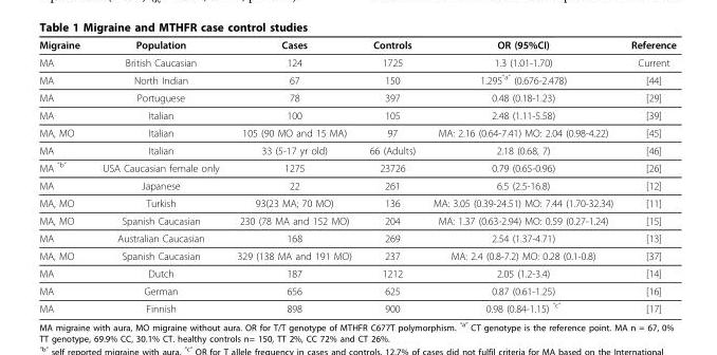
<table><thead><tr><td>Migraine</td><td>Population</td><td>Cases</td><td>Controls</td><td>OR (95%CI)</td><td>Reference</td></tr></thead><tbody><tr><td>MA</td><td>British Caucasian</td><td>124</td><td>1725</td><td>1.3 (1.01-1.70)</td><td>Current</td></tr><tr><td>MA</td><td>North Indian</td><td>67</td><td>150</td><td>1.295“a” (0.676-2.478)</td><td>[44]</td></tr><tr><td>MA</td><td>Portuguese</td><td>78</td><td>397</td><td>0.48 (0.18-1.23)</td><td>[29]</td></tr><tr><td>MA</td><td>Italian</td><td>100</td><td>105</td><td>2.48 (1.11-5.58)</td><td>[39]</td></tr><tr><td>MA, MO</td><td>Italian</td><td>105 (90 MO and 15 MA)</td><td>97</td><td>MA: 2.16 (0.64-7.41) MO: 2.04 (0.98-4.22)</td><td>[45]</td></tr><tr><td>MA</td><td>Italian</td><td>33 (5-17 yr old)</td><td>66 (Adults)</td><td>2.18 (0.68, 7)</td><td>[46]</td></tr><tr><td>MA “b”</td><td>USA Caucasian female only</td><td>1275</td><td>23726</td><td>0.79 (0.65-0.96)</td><td>[26]</td></tr><tr><td>MA</td><td>Japanese</td><td>22</td><td>261</td><td>6.5 (2.5-16.8)</td><td>[12]</td></tr><tr><td>MA, MO</td><td>Turkish</td><td>93(23 MA; 70 MO)</td><td>136</td><td>MA: 3.05 (0.39-24.51) MO: 7.44 (1.70-32.34)</td><td>[11]</td></tr><tr><td>MA, MO</td><td>Spanish Caucasian</td><td>230 (78 MA and 152 MO)</td><td>204</td><td>MA: 1.37 (0.63-2.94) MO: 0.59 (0.27-1.24)</td><td>[15]</td></tr><tr><td>MA</td><td>Australian Caucasian</td><td>168</td><td>269</td><td>2.54 (1.37-4.71)</td><td>[13]</td></tr><tr><td>MA, MO</td><td>Spanish Caucasian</td><td>329 (138 MA and 191 MO)</td><td>237</td><td>MA: 2.4 (0.8-7.2) MO: 0.28 (0.1-0.8)</td><td>[37]</td></tr><tr><td>MA</td><td>Dutch</td><td>187</td><td>1212</td><td>2.05 (1.2-3.4)</td><td>[14]</td></tr><tr><td>MA</td><td>German</td><td>656</td><td>625</td><td>0.87 (0.61-1.25)</td><td>[16]</td></tr><tr><td>MA</td><td>Finnish</td><td>898</td><td>900</td><td>0.98 (0.84-1.15) “c”</td><td>[17]</td></tr></tbody></table>